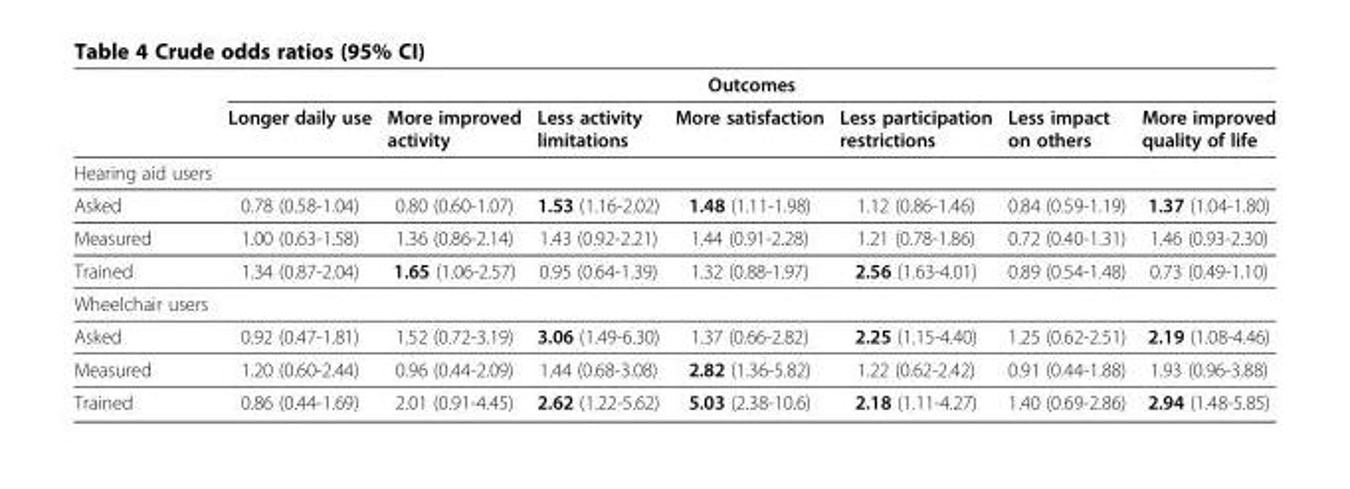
<table><thead><tr><td rowspan="2"></td><td colspan="7">Outcomes</td></tr><tr><td>Longer daily use</td><td>More improved activity</td><td>Less activity limitations</td><td>More satisfaction</td><td>Less participation restrictions</td><td>Less impact on others</td><td>More improved quality of life</td></tr></thead><tbody><tr><td colspan="8">Hearing aid users</td></tr><tr><td>Asked</td><td>0.78 (0.58-1.04)</td><td>0.80 (0.60-1.07)</td><td>1.53 (1.16-2.02)</td><td>1.48 (1.11-1.98)</td><td>1.12 (0.86-1.46)</td><td>0.84 (0.59-1.19)</td><td>1.37 (1.04-1.80)</td></tr><tr><td>Measured</td><td>1.00 (0.63-1.58)</td><td>1.36 (0.86-2.14)</td><td>1.43 (0.92-2.21)</td><td>1.44 (0.91-2.28)</td><td>1.21 (0.78-1.86)</td><td>0.72 (0.40-1.31)</td><td>1.46 (0.93-2.30)</td></tr><tr><td>Trained</td><td>1.34 (0.87-2.04)</td><td>1.65 (1.06-2.57)</td><td>0.95 (0.64-1.39)</td><td>1.32 (0.88-1.97)</td><td>2.56 (1.63-4.01)</td><td>0.89 (0.54-1.48)</td><td>0.73 (0.49-1.10)</td></tr><tr><td colspan="8">Wheelchair users</td></tr><tr><td>Asked</td><td>0.92 (0.47-1.81)</td><td>1.52 (0.72-3.19)</td><td>3.06 (1.49-6.30)</td><td>1.37 (0.66-2.82)</td><td>2.25 (1.15-4.40)</td><td>1.25 (0.62-2.51)</td><td>2.19 (1.08-4.46)</td></tr><tr><td>Measured</td><td>1.20 (0.60-2.44)</td><td>0.96 (0.44-2.09)</td><td>1.44 (0.68-3.08)</td><td>2.82 (1.36-5.82)</td><td>1.22 (0.62-2.42)</td><td>0.91 (0.44-1.88)</td><td>1.93 (0.96-3.88)</td></tr><tr><td>Trained</td><td>0.86 (0.44-1.69)</td><td>2.01 (0.91-4.45)</td><td>2.62 (1.22-5.62)</td><td>5.03 (2.38-10.6)</td><td>2.18 (1.11-4.27)</td><td>1.40 (0.69-2.86)</td><td>2.94 (1.48-5.85)</td></tr></tbody></table>